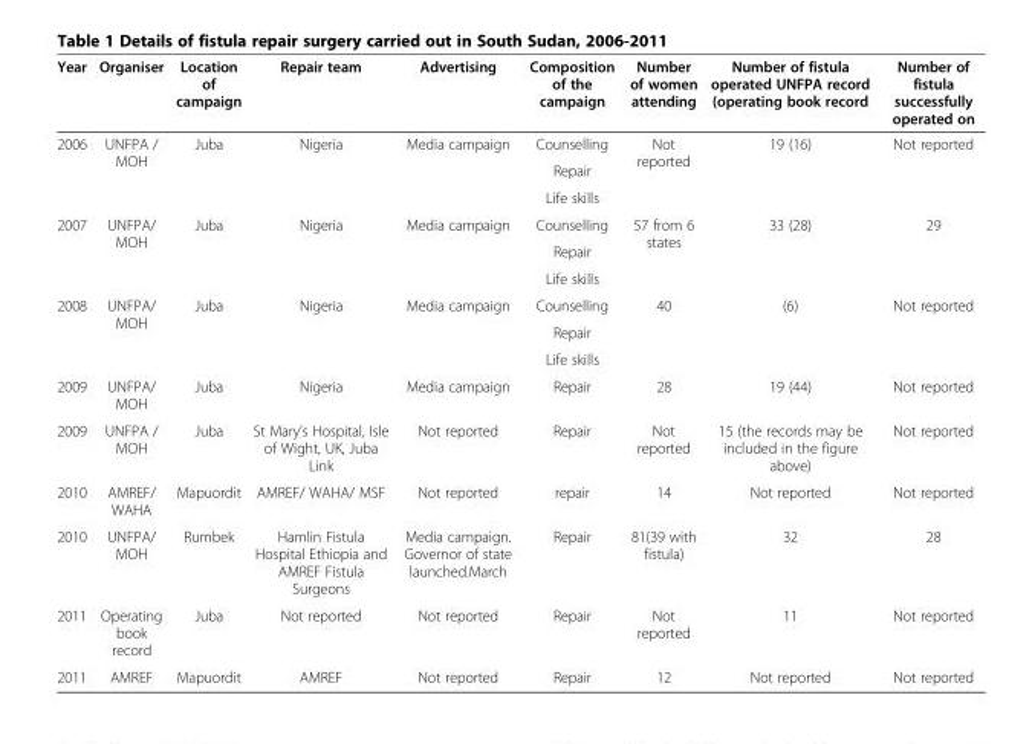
<table><thead><tr><td>Year</td><td>Organiser</td><td>Location of campaign</td><td>Repair team</td><td>Advertising</td><td>Composition of the campaign</td><td>Number of women attending</td><td>Number of fistula operated UNFPA record (operating book record</td><td>Number of fistula successfully operated on</td></tr></thead><tbody><tr><td rowspan="3">2006</td><td rowspan="3">UNFPA / MOH</td><td rowspan="3">Juba</td><td rowspan="3">Nigeria</td><td rowspan="3">Media campaign</td><td>Counselling</td><td rowspan="3">Not reported</td><td rowspan="3">19 (16)</td><td rowspan="3">Not reported</td></tr><tr><td>Repair</td></tr><tr><td>Life skills</td></tr><tr><td rowspan="3">2007</td><td rowspan="3">UNFPA/ MOH</td><td rowspan="3">Juba</td><td rowspan="3">Nigeria</td><td rowspan="3">Media campaign</td><td>Counselling</td><td rowspan="3">57 from 6 states</td><td rowspan="3">33 (28)</td><td rowspan="3">29</td></tr><tr><td>Repair</td></tr><tr><td>Life skills</td></tr><tr><td rowspan="3">2008</td><td rowspan="3">UNFPA/ MOH</td><td rowspan="3">Juba</td><td rowspan="3">Nigeria</td><td rowspan="3">Media campaign</td><td>Counselling</td><td rowspan="3">40</td><td rowspan="3">(6)</td><td rowspan="3">Not reported</td></tr><tr><td>Repair</td></tr><tr><td>Life skills</td></tr><tr><td>2009</td><td>UNFPA/ MOH</td><td>Juba</td><td>Nigeria</td><td>Media campaign</td><td>Repair</td><td>28</td><td>19 (44)</td><td>Not reported</td></tr><tr><td>2009</td><td>UNFPA / MOH</td><td>Juba</td><td>St Mary’s Hospital, Isle of Wight, UK, Juba Link</td><td>Not reported</td><td>Repair</td><td>Not reported</td><td>15 (the records may be included in the figure above)</td><td>Not reported</td></tr><tr><td>2010</td><td>AMREF/ WAHA</td><td>Mapuordit</td><td>AMREF/ WAHA/ MSF</td><td>Not reported</td><td>repair</td><td>14</td><td>Not reported</td><td>Not reported</td></tr><tr><td>2010</td><td>UNFPA/ MOH</td><td>Rumbek</td><td>Hamlin Fistula Hospital Ethiopia and AMREF Fistula Surgeons</td><td>Media campaign. Governor of state launched.March</td><td>Repair</td><td>81(39 with fistula)</td><td>32</td><td>28</td></tr><tr><td>2011</td><td>Operating book record</td><td>Juba</td><td>Not reported</td><td>Not reported</td><td>Repair</td><td>Not reported</td><td>11</td><td>Not reported</td></tr><tr><td>2011</td><td>AMREF</td><td>Mapuordit</td><td>AMREF</td><td>Not reported</td><td>Repair</td><td>12</td><td>Not reported</td><td>Not reported</td></tr></tbody></table>